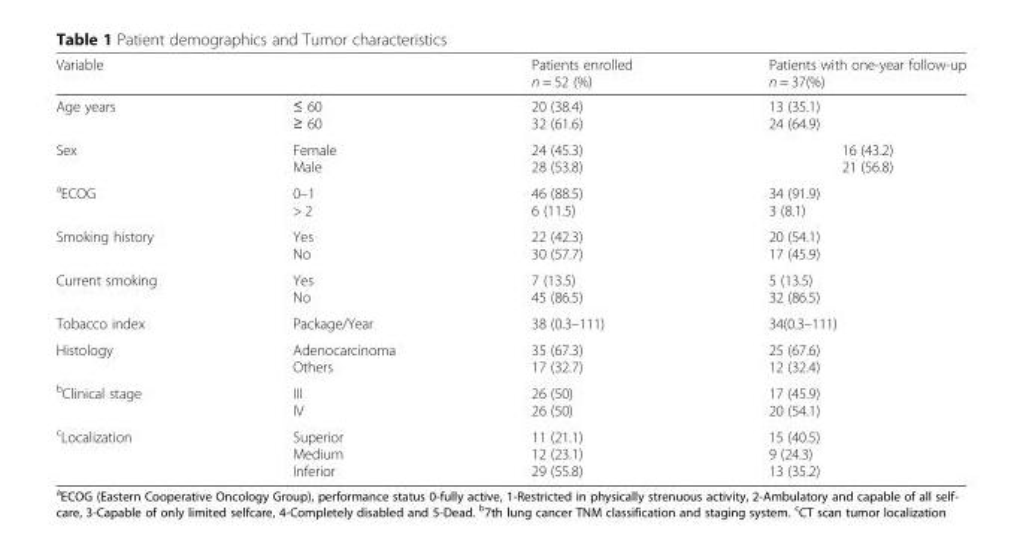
<table><thead><tr><td colspan="2">Variable</td><td rowspan="2">Patients enrolled n = 52 (%) 20 (38.4) 32 (61.6)</td><td rowspan="2">Patients with one-year follow-up n = 37(%) 13 (35.1) 24 (64.9)</td></tr><tr><td>Age years</td><td>≤ 60 ≥ 60</td></tr></thead><tbody><tr><td>Sex</td><td>Female Male</td><td>24 (45.3) 28 (53.8)</td><td>16 (43.2) 21 (56.8)</td></tr><tr><td><sup>a</sup>ECOG</td><td>0–1 &gt; 2</td><td>46 (88.5) 6 (11.5)</td><td>34 (91.9) 3 (8.1)</td></tr><tr><td>Smoking history</td><td>Yes No</td><td>22 (42.3) 30 (57.7)</td><td>20 (54.1) 17 (45.9)</td></tr><tr><td>Current smoking</td><td>Yes No</td><td>7 (13.5) 45 (86.5)</td><td>5 (13.5) 32 (86.5)</td></tr><tr><td>Tobacco index</td><td>Package/Year</td><td>38 (0.3–111)</td><td>34(0.3–111)</td></tr><tr><td>Histology</td><td>Adenocarcinoma Others</td><td>35 (67.3) 17 (32.7)</td><td>25 (67.6) 12 (32.4)</td></tr><tr><td><sup>b</sup>Clinical stage</td><td>III IV</td><td>26 (50) 26 (50)</td><td>17 (45.9) 20 (54.1)</td></tr><tr><td><sup>c</sup>Localization</td><td>Superior Medium Inferior</td><td>11 (21.1) 12 (23.1) 29 (55.8)</td><td>15 (40.5) 9 (24.3) 13 (35.2)</td></tr></tbody></table>